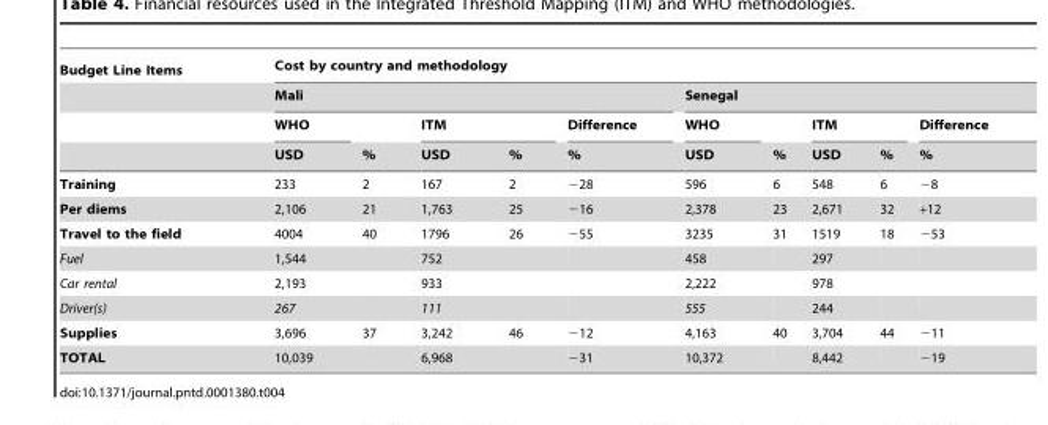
<table><thead><tr><td rowspan="4">Budget Line Items</td><td colspan="10">Cost by country and methodology</td></tr><tr><td colspan="5">Mali</td><td colspan="5">Senegal</td></tr><tr><td rowspan="2">WHO USD</td><td rowspan="2">%</td><td colspan="2">ITM</td><td rowspan="2">Difference %</td><td rowspan="2">WHO USD</td><td rowspan="2">%</td><td colspan="2">ITM</td><td rowspan="2">Difference %</td></tr><tr><td>USD</td><td>%</td><td>USD</td><td>%</td></tr></thead><tbody><tr><td>Training</td><td>233</td><td>2</td><td>167</td><td>2</td><td>−28</td><td>596</td><td>6</td><td>548</td><td>6</td><td>−8</td></tr><tr><td>Per diems</td><td>2,106</td><td>21</td><td>1,763</td><td>25</td><td>−16</td><td>2,378</td><td>23</td><td>2,671</td><td>32</td><td>+12</td></tr><tr><td>Travel to the field</td><td>4004</td><td>40</td><td>1796</td><td>26</td><td>−55</td><td>3235</td><td>31</td><td>1519</td><td>18</td><td>−53</td></tr><tr><td>Fuel</td><td>1,544</td><td></td><td>752</td><td></td><td></td><td>458</td><td></td><td>297</td><td></td><td></td></tr><tr><td>Car rental</td><td>2,193</td><td></td><td>933</td><td></td><td></td><td>2,222</td><td></td><td>978</td><td></td><td></td></tr><tr><td>Driver(s)</td><td>267</td><td></td><td>111</td><td></td><td></td><td>555</td><td></td><td>244</td><td></td><td></td></tr><tr><td>Supplies</td><td>3,696</td><td>37</td><td>3,242</td><td>46</td><td>−12</td><td>4,163</td><td>40</td><td>3,704</td><td>44</td><td>−11</td></tr><tr><td>TOTAL</td><td>10,039</td><td></td><td>6,968</td><td></td><td>−31</td><td>10,372</td><td></td><td>8,442</td><td></td><td>−19</td></tr></tbody></table>